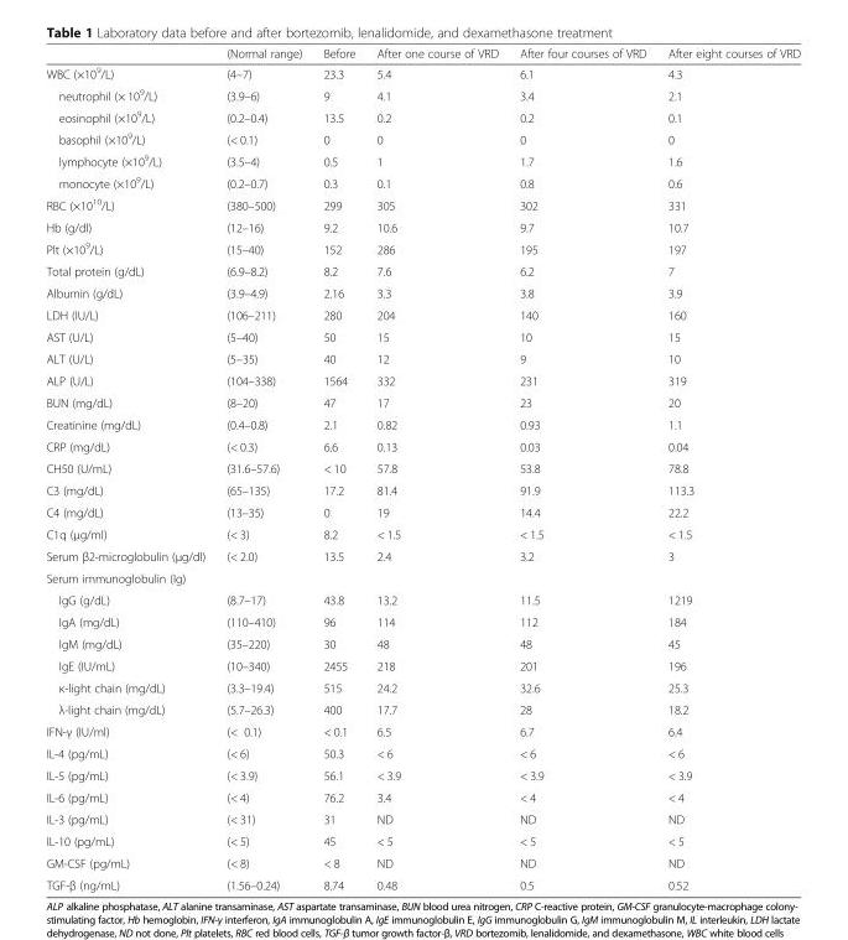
<table><thead><tr><td></td><td>(Normal range)</td><td>Before</td><td>After one course of VRD</td><td>After four courses of VRD</td><td>After eight courses of VRD</td></tr></thead><tbody><tr><td>WBC (×10<sup>9</sup>/L)</td><td>(4–7)</td><td>23.3</td><td>5.4</td><td>6.1</td><td>4.3</td></tr><tr><td>neutrophil (× 10<sup>9</sup>/L)</td><td>(3.9–6)</td><td>9</td><td>4.1</td><td>3.4</td><td>2.1</td></tr><tr><td>eosinophil (×10<sup>9</sup>/L)</td><td>(0.2–0.4)</td><td>13.5</td><td>0.2</td><td>0.2</td><td>0.1</td></tr><tr><td>basophil (×10<sup>9</sup>/L)</td><td>(&lt; 0.1)</td><td>0</td><td>0</td><td>0</td><td>0</td></tr><tr><td>lymphocyte (×10<sup>9</sup>/L)</td><td>(3.5–4)</td><td>0.5</td><td>1</td><td>1.7</td><td>1.6</td></tr><tr><td>monocyte (×10<sup>9</sup>/L)</td><td>(0.2–0.7)</td><td>0.3</td><td>0.1</td><td>0.8</td><td>0.6</td></tr><tr><td>RBC (×10<sup>10</sup>/L)</td><td>(380–500)</td><td>299</td><td>305</td><td>302</td><td>331</td></tr><tr><td>Hb (g/dl)</td><td>(12–16)</td><td>9.2</td><td>10.6</td><td>9.7</td><td>10.7</td></tr><tr><td>Plt (×10<sup>9</sup>/L)</td><td>(15–40)</td><td>152</td><td>286</td><td>195</td><td>197</td></tr><tr><td>Total protein (g/dL)</td><td>(6.9–8.2)</td><td>8.2</td><td>7.6</td><td>6.2</td><td>7</td></tr><tr><td>Albumin (g/dL)</td><td>(3.9–4.9)</td><td>2.16</td><td>3.3</td><td>3.8</td><td>3.9</td></tr><tr><td>LDH (IU/L)</td><td>(106–211)</td><td>280</td><td>204</td><td>140</td><td>160</td></tr><tr><td>AST (U/L)</td><td>(5–40)</td><td>50</td><td>15</td><td>10</td><td>15</td></tr><tr><td>ALT (U/L)</td><td>(5–35)</td><td>40</td><td>12</td><td>9</td><td>10</td></tr><tr><td>ALP (U/L)</td><td>(104–338)</td><td>1564</td><td>332</td><td>231</td><td>319</td></tr><tr><td>BUN (mg/dL)</td><td>(8–20)</td><td>47</td><td>17</td><td>23</td><td>20</td></tr><tr><td>Creatinine (mg/dL)</td><td>(0.4–0.8)</td><td>2.1</td><td>0.82</td><td>0.93</td><td>1.1</td></tr><tr><td>CRP (mg/dL)</td><td>(&lt; 0.3)</td><td>6.6</td><td>0.13</td><td>0.03</td><td>0.04</td></tr><tr><td>CH50 (U/mL)</td><td>(31.6–57.6)</td><td>&lt; 10</td><td>57.8</td><td>53.8</td><td>78.8</td></tr><tr><td>C3 (mg/dL)</td><td>(65–135)</td><td>17.2</td><td>81.4</td><td>91.9</td><td>113.3</td></tr><tr><td>C4 (mg/dL)</td><td>(13–35)</td><td>0</td><td>19</td><td>14.4</td><td>22.2</td></tr><tr><td>C1q (μg/ml)</td><td>(&lt; 3)</td><td>8.2</td><td>&lt; 1.5</td><td>&lt; 1.5</td><td>&lt; 1.5</td></tr><tr><td>Serum β2-microglobulin (μg/dl)</td><td>(&lt; 2.0)</td><td>13.5</td><td>2.4</td><td>3.2</td><td>3</td></tr><tr><td colspan="6">Serum immunoglobulin (Ig)</td></tr><tr><td>IgG (g/dL)</td><td>(8.7–17)</td><td>43.8</td><td>13.2</td><td>11.5</td><td>1219</td></tr><tr><td>IgA (mg/dL)</td><td>(110–410)</td><td>96</td><td>114</td><td>112</td><td>184</td></tr><tr><td>IgM (mg/dL)</td><td>(35–220)</td><td>30</td><td>48</td><td>48</td><td>45</td></tr><tr><td>IgE (IU/mL)</td><td>(10–340)</td><td>2455</td><td>218</td><td>201</td><td>196</td></tr><tr><td>κ-light chain (mg/dL)</td><td>(3.3–19.4)</td><td>515</td><td>24.2</td><td>32.6</td><td>25.3</td></tr><tr><td>λ-light chain (mg/dL)</td><td>(5.7–26.3)</td><td>400</td><td>17.7</td><td>28</td><td>18.2</td></tr><tr><td>IFN-γ (IU/ml)</td><td>(&lt; 0.1)</td><td>&lt; 0.1</td><td>6.5</td><td>6.7</td><td>6.4</td></tr><tr><td>IL-4 (pg/mL)</td><td>(&lt; 6)</td><td>50.3</td><td>&lt; 6</td><td>&lt; 6</td><td>&lt; 6</td></tr><tr><td>IL-5 (pg/mL)</td><td>(&lt; 3.9)</td><td>56.1</td><td>&lt; 3.9</td><td>&lt; 3.9</td><td>&lt; 3.9</td></tr><tr><td>IL-6 (pg/mL)</td><td>(&lt; 4)</td><td>76.2</td><td>3.4</td><td>&lt; 4</td><td>&lt; 4</td></tr><tr><td>IL-3 (pg/mL)</td><td>(&lt; 31)</td><td>31</td><td>ND</td><td>ND</td><td>ND</td></tr><tr><td>IL-10 (pg/mL)</td><td>(&lt; 5)</td><td>45</td><td>&lt; 5</td><td>&lt; 5</td><td>&lt; 5</td></tr><tr><td>GM-CSF (pg/mL)</td><td>(&lt; 8)</td><td>&lt; 8</td><td>ND</td><td>ND</td><td>ND</td></tr><tr><td>TGF-β (ng/mL)</td><td>(1.56–0.24)</td><td>8.74</td><td>0.48</td><td>0.5</td><td>0.52</td></tr></tbody></table>